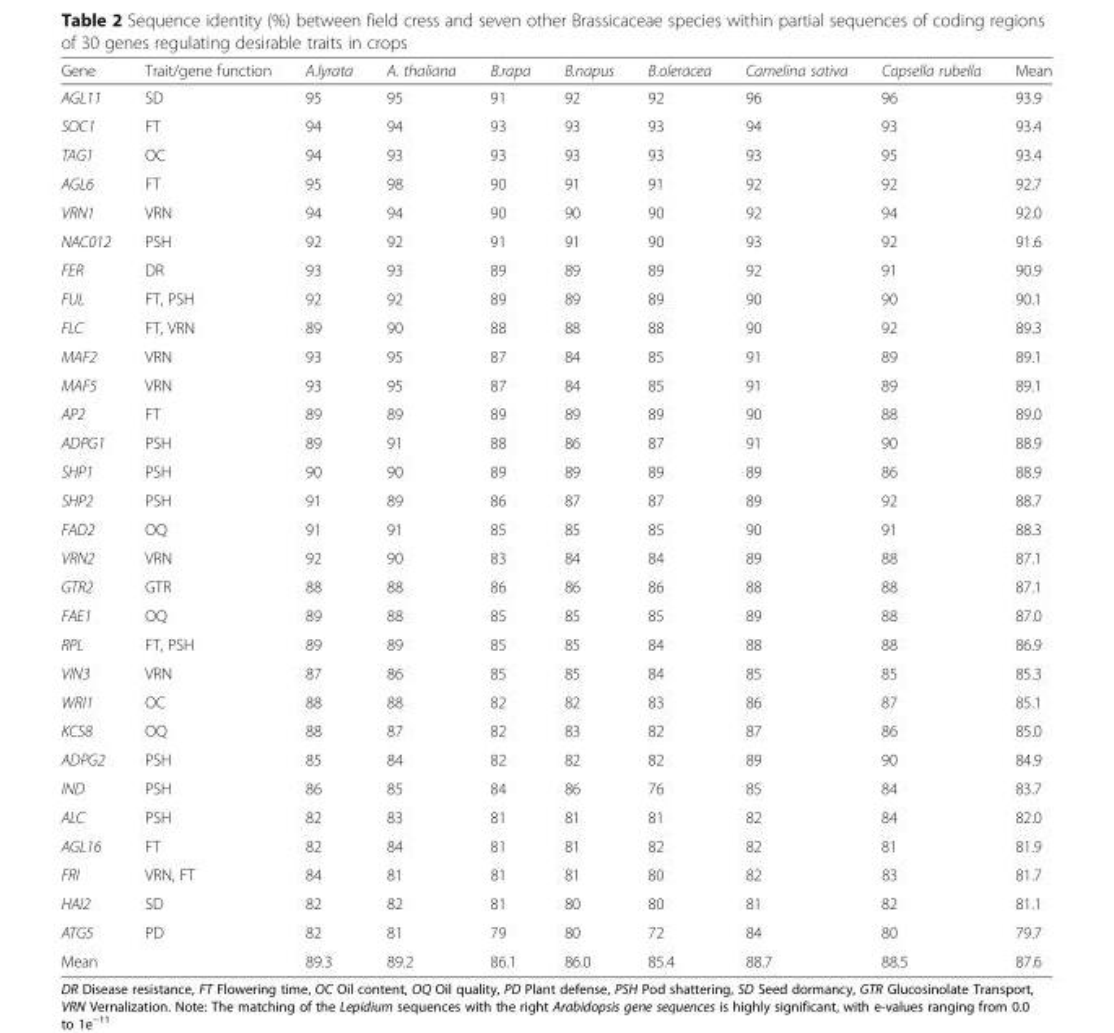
<table><thead><tr><td>Gene</td><td>Trait/gene function</td><td>A.lyrata</td><td>A. thaliana</td><td>B.rapa</td><td>B.napus</td><td>B.oleracea</td><td>Camelina sativa</td><td>Capsella rubella</td><td>Mean</td></tr></thead><tbody><tr><td>AGL11</td><td>SD</td><td>95</td><td>95</td><td>91</td><td>92</td><td>92</td><td>96</td><td>96</td><td>93.9</td></tr><tr><td>SOC1</td><td>FT</td><td>94</td><td>94</td><td>93</td><td>93</td><td>93</td><td>94</td><td>93</td><td>93.4</td></tr><tr><td>TAG1</td><td>OC</td><td>94</td><td>93</td><td>93</td><td>93</td><td>93</td><td>93</td><td>95</td><td>93.4</td></tr><tr><td>AGL6</td><td>FT</td><td>95</td><td>98</td><td>90</td><td>91</td><td>91</td><td>92</td><td>92</td><td>92.7</td></tr><tr><td>VRN1</td><td>VRN</td><td>94</td><td>94</td><td>90</td><td>90</td><td>90</td><td>92</td><td>94</td><td>92.0</td></tr><tr><td>NAC012</td><td>PSH</td><td>92</td><td>92</td><td>91</td><td>91</td><td>90</td><td>93</td><td>92</td><td>91.6</td></tr><tr><td>FER</td><td>DR</td><td>93</td><td>93</td><td>89</td><td>89</td><td>89</td><td>92</td><td>91</td><td>90.9</td></tr><tr><td>FUL</td><td>FT, PSH</td><td>92</td><td>92</td><td>89</td><td>89</td><td>89</td><td>90</td><td>90</td><td>90.1</td></tr><tr><td>FLC</td><td>FT, VRN</td><td>89</td><td>90</td><td>88</td><td>88</td><td>88</td><td>90</td><td>92</td><td>89.3</td></tr><tr><td>MAF2</td><td>VRN</td><td>93</td><td>95</td><td>87</td><td>84</td><td>85</td><td>91</td><td>89</td><td>89.1</td></tr><tr><td>MAF5</td><td>VRN</td><td>93</td><td>95</td><td>87</td><td>84</td><td>85</td><td>91</td><td>89</td><td>89.1</td></tr><tr><td>AP2</td><td>FT</td><td>89</td><td>89</td><td>89</td><td>89</td><td>89</td><td>90</td><td>88</td><td>89.0</td></tr><tr><td>ADPG1</td><td>PSH</td><td>89</td><td>91</td><td>88</td><td>86</td><td>87</td><td>91</td><td>90</td><td>88.9</td></tr><tr><td>SHP1</td><td>PSH</td><td>90</td><td>90</td><td>89</td><td>89</td><td>89</td><td>89</td><td>86</td><td>88.9</td></tr><tr><td>SHP2</td><td>PSH</td><td>91</td><td>89</td><td>86</td><td>87</td><td>87</td><td>89</td><td>92</td><td>88.7</td></tr><tr><td>FAD2</td><td>OQ</td><td>91</td><td>91</td><td>85</td><td>85</td><td>85</td><td>90</td><td>91</td><td>88.3</td></tr><tr><td>VRN2</td><td>VRN</td><td>92</td><td>90</td><td>83</td><td>84</td><td>84</td><td>89</td><td>88</td><td>87.1</td></tr><tr><td>GTR2</td><td>GTR</td><td>88</td><td>88</td><td>86</td><td>86</td><td>86</td><td>88</td><td>88</td><td>87.1</td></tr><tr><td>FAE1</td><td>OQ</td><td>89</td><td>88</td><td>85</td><td>85</td><td>85</td><td>89</td><td>88</td><td>87.0</td></tr><tr><td>RPL</td><td>FT, PSH</td><td>89</td><td>89</td><td>85</td><td>85</td><td>84</td><td>88</td><td>88</td><td>86.9</td></tr><tr><td>VIN3</td><td>VRN</td><td>87</td><td>86</td><td>85</td><td>85</td><td>84</td><td>85</td><td>85</td><td>85.3</td></tr><tr><td>WRI1</td><td>OC</td><td>88</td><td>88</td><td>82</td><td>82</td><td>83</td><td>86</td><td>87</td><td>85.1</td></tr><tr><td>KCS8</td><td>OQ</td><td>88</td><td>87</td><td>82</td><td>83</td><td>82</td><td>87</td><td>86</td><td>85.0</td></tr><tr><td>ADPG2</td><td>PSH</td><td>85</td><td>84</td><td>82</td><td>82</td><td>82</td><td>89</td><td>90</td><td>84.9</td></tr><tr><td>IND</td><td>PSH</td><td>86</td><td>85</td><td>84</td><td>86</td><td>76</td><td>85</td><td>84</td><td>83.7</td></tr><tr><td>ALC</td><td>PSH</td><td>82</td><td>83</td><td>81</td><td>81</td><td>81</td><td>82</td><td>84</td><td>82.0</td></tr><tr><td>AGL16</td><td>FT</td><td>82</td><td>84</td><td>81</td><td>81</td><td>82</td><td>82</td><td>81</td><td>81.9</td></tr><tr><td>FRI</td><td>VRN, FT</td><td>84</td><td>81</td><td>81</td><td>81</td><td>80</td><td>82</td><td>83</td><td>81.7</td></tr><tr><td>HAI2</td><td>SD</td><td>82</td><td>82</td><td>81</td><td>80</td><td>80</td><td>81</td><td>82</td><td>81.1</td></tr><tr><td>ATG5</td><td>PD</td><td>82</td><td>81</td><td>79</td><td>80</td><td>72</td><td>84</td><td>80</td><td>79.7</td></tr><tr><td>Mean</td><td></td><td>89.3</td><td>89.2</td><td>86.1</td><td>86.0</td><td>85.4</td><td>88.7</td><td>88.5</td><td>87.6</td></tr></tbody></table>